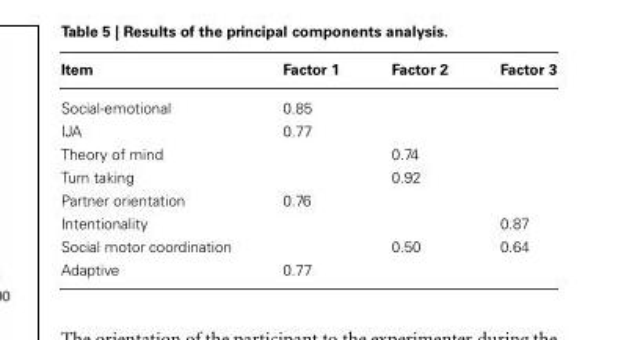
<table><thead><tr><td>Item</td><td>Factor 1</td><td>Factor 2</td><td>Factor 3</td></tr></thead><tbody><tr><td>Social-emotional</td><td>0.85</td><td></td><td></td></tr><tr><td>IJA</td><td>0.77</td><td></td><td></td></tr><tr><td>Theory of mind</td><td></td><td>0.74</td><td></td></tr><tr><td>Turn taking</td><td></td><td>0.92</td><td></td></tr><tr><td>Partner orientation</td><td>0.76</td><td></td><td></td></tr><tr><td>Intentionality</td><td></td><td></td><td>0.87</td></tr><tr><td>Social motor coordination</td><td></td><td>0.50</td><td>0.64</td></tr><tr><td>Adaptive</td><td>0.77</td><td></td><td></td></tr></tbody></table>